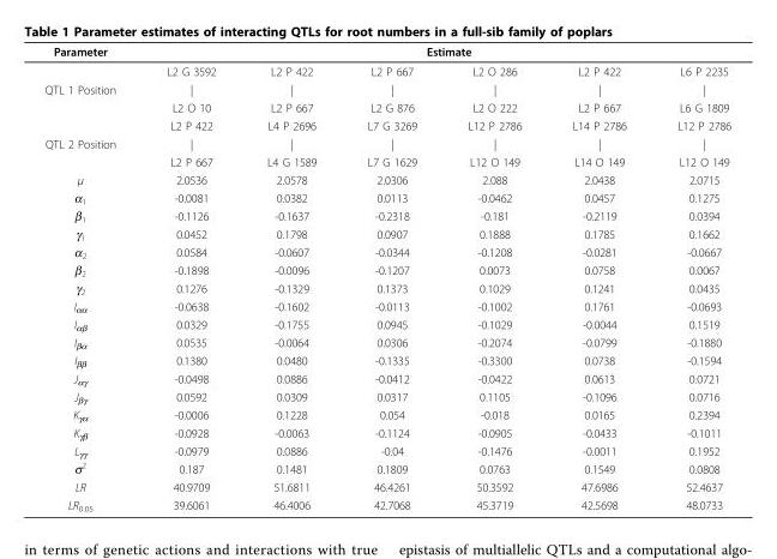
<table><thead><tr><td rowspan="2">Parameter</td><td colspan="6">Estimate</td></tr><tr><td>L2 G 3592</td><td>L2 P 422</td><td>L2 P 667</td><td>L2 O 286</td><td>L2 P 422</td><td>L6 P 2235</td></tr></thead><tbody><tr><td rowspan="3">QTL 1 Position</td><td>|</td><td>|</td><td>|</td><td>|</td><td>|</td><td>|</td></tr><tr><td>L2 O 10</td><td>L2 P 667</td><td>L2 G 876</td><td>L2 O 222</td><td>L2 P 667</td><td>L6 G 1809</td></tr><tr><td>L2 P 422</td><td>L4 P 2696</td><td>L7 G 3269</td><td>L12 P 2786</td><td>L14 P 2786</td><td>L12 P 2786</td></tr><tr><td rowspan="2">QTL 2 Position</td><td>|</td><td>|</td><td>|</td><td>|</td><td>|</td><td>|</td></tr><tr><td>L2 P 667</td><td>L4 G 1589</td><td>L7 G 1629</td><td>L12 O 149</td><td>L14 O 149</td><td>L12 O 149</td></tr><tr><td>μ</td><td>2.0536</td><td>2.0578</td><td>2.0306</td><td>2.088</td><td>2.0438</td><td>2.0715</td></tr><tr><td>α<sub>1</sub></td><td>-0.0081</td><td>0.0382</td><td>0.0113</td><td>-0.0462</td><td>0.0457</td><td>0.1275</td></tr><tr><td>β<sub>1</sub></td><td>-0.1126</td><td>-0.1637</td><td>-0.2318</td><td>-0.181</td><td>-0.2119</td><td>0.0394</td></tr><tr><td>γ<sub>1</sub></td><td>0.0452</td><td>0.1798</td><td>0.0907</td><td>0.1888</td><td>0.1785</td><td>0.1662</td></tr><tr><td>α<sub>2</sub></td><td>0.0584</td><td>-0.0607</td><td>-0.0344</td><td>-0.1208</td><td>-0.0281</td><td>-0.0667</td></tr><tr><td>β<sub>2</sub></td><td>-0.1898</td><td>-0.0096</td><td>-0.1207</td><td>0.0073</td><td>0.0758</td><td>0.0067</td></tr><tr><td>γ<sub>2</sub></td><td>0.1276</td><td>-0.1329</td><td>0.1373</td><td>0.1029</td><td>0.1241</td><td>0.0435</td></tr><tr><td>I<sub>αα</sub></td><td>-0.0638</td><td>-0.1602</td><td>-0.0113</td><td>-0.1002</td><td>0.1761</td><td>-0.0693</td></tr><tr><td>I<sub>αβ</sub></td><td>0.0329</td><td>-0.1755</td><td>0.0945</td><td>-0.1029</td><td>-0.0044</td><td>0.1519</td></tr><tr><td>I<sub>βα</sub></td><td>0.0535</td><td>-0.0064</td><td>0.0306</td><td>-0.2074</td><td>-0.0799</td><td>-0.1880</td></tr><tr><td>I<sub>ββ</sub></td><td>0.1380</td><td>0.0480</td><td>-0.1335</td><td>-0.3300</td><td>0.0738</td><td>-0.1594</td></tr><tr><td>J<sub>αγ</sub></td><td>-0.0498</td><td>0.0886</td><td>-0.0412</td><td>-0.0422</td><td>0.0613</td><td>0.0721</td></tr><tr><td>J<sub>βγ</sub></td><td>0.0592</td><td>0.0309</td><td>0.0317</td><td>0.1105</td><td>-0.1096</td><td>0.0716</td></tr><tr><td>K<sub>γα</sub></td><td>-0.0006</td><td>0.1228</td><td>0.054</td><td>-0.018</td><td>0.0165</td><td>0.2394</td></tr><tr><td>K<sub>γβ</sub></td><td>-0.0928</td><td>-0.0063</td><td>-0.1124</td><td>-0.0905</td><td>-0.0433</td><td>-0.1011</td></tr><tr><td>L<sub>γγ</sub></td><td>-0.0979</td><td>0.0886</td><td>-0.04</td><td>-0.1476</td><td>-0.0011</td><td>0.1952</td></tr><tr><td>σ<sup>2</sup></td><td>0.187</td><td>0.1481</td><td>0.1809</td><td>0.0763</td><td>0.1549</td><td>0.0808</td></tr><tr><td>LR</td><td>40.9709</td><td>51.6811</td><td>46.4261</td><td>50.3592</td><td>47.6986</td><td>52.4637</td></tr><tr><td>LR<sub>0.05</sub></td><td>39.6061</td><td>46.4006</td><td>42.7068</td><td>45.3719</td><td>42.5698</td><td>48.0733</td></tr></tbody></table>